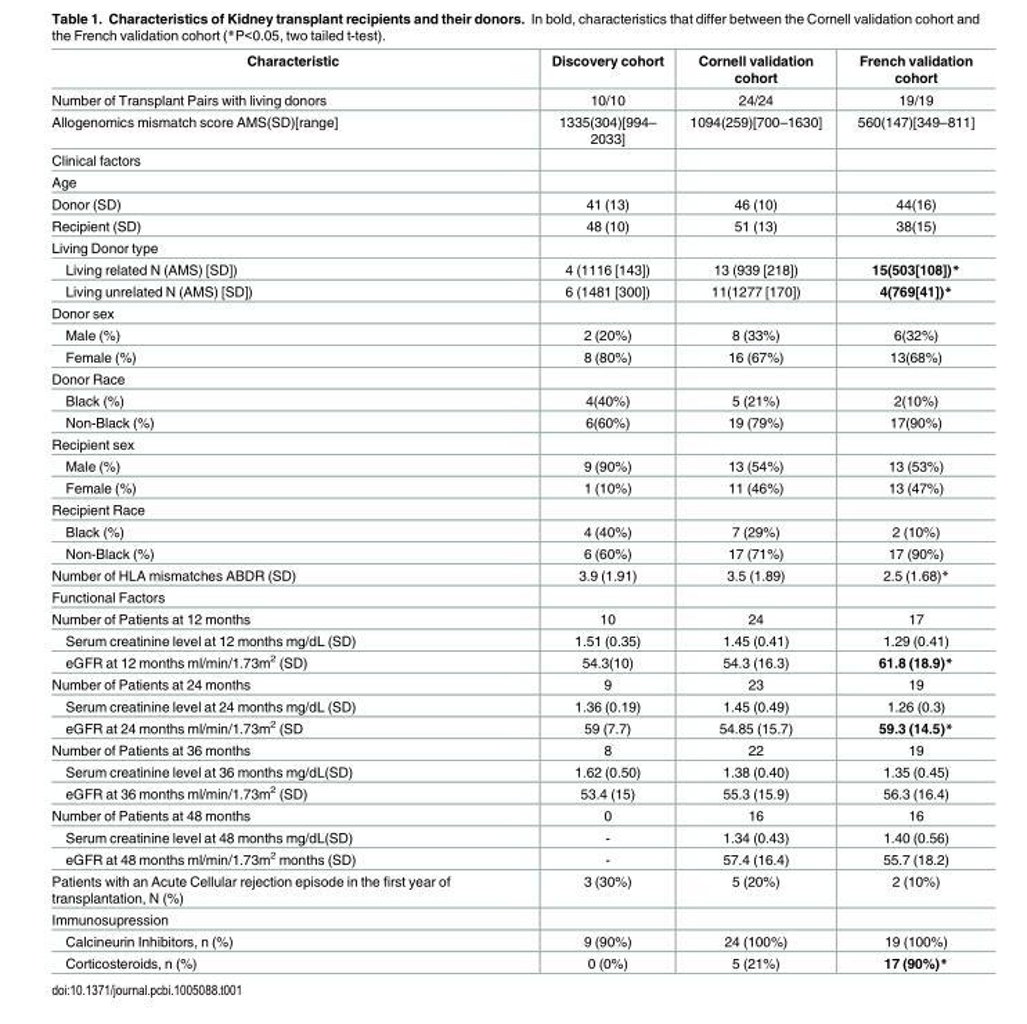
<table><thead><tr><td>Characteristic</td><td>Discovery cohort</td><td>Cornell validation cohort</td><td>French validation cohort</td></tr></thead><tbody><tr><td>Number of Transplant Pairs with living donors</td><td>10/10</td><td>24/24</td><td>19/19</td></tr><tr><td>Allogenomics mismatch score AMS(SD)[range]</td><td>1335(304)[994– 2033]</td><td>1094(259)[700–1630]</td><td>560(147)[349–811]</td></tr><tr><td colspan="4">Clinical factors</td></tr><tr><td colspan="4">Age</td></tr><tr><td>Donor (SD)</td><td>41 (13)</td><td>46 (10)</td><td>44(16)</td></tr><tr><td>Recipient (SD)</td><td>48 (10)</td><td>51 (13)</td><td>38(15)</td></tr><tr><td colspan="4">Living Donor type</td></tr><tr><td>Living related N (AMS) [SD])</td><td>4 (1116 [143])</td><td>13 (939 [218])</td><td>15(503[108])*</td></tr><tr><td>Living unrelated N (AMS) [SD])</td><td>6 (1481 [300])</td><td>11(1277 [170])</td><td>4(769[41])*</td></tr><tr><td colspan="4">Donor sex</td></tr><tr><td>Male (%)</td><td>2 (20%)</td><td>8 (33%)</td><td>6(32%)</td></tr><tr><td>Female (%)</td><td>8 (80%)</td><td>16 (67%)</td><td>13(68%)</td></tr><tr><td colspan="4">Donor Race</td></tr><tr><td>Black (%)</td><td>4(40%)</td><td>5 (21%)</td><td>2(10%)</td></tr><tr><td>Non-Black (%)</td><td>6(60%)</td><td>19 (79%)</td><td>17(90%)</td></tr><tr><td colspan="4">Recipient sex</td></tr><tr><td>Male (%)</td><td>9 (90%)</td><td>13 (54%)</td><td>13 (53%)</td></tr><tr><td>Female (%)</td><td>1 (10%)</td><td>11 (46%)</td><td>13 (47%)</td></tr><tr><td colspan="4">Recipient Race</td></tr><tr><td>Black (%)</td><td>4 (40%)</td><td>7 (29%)</td><td>2 (10%)</td></tr><tr><td>Non-Black (%)</td><td>6 (60%)</td><td>17 (71%)</td><td>17 (90%)</td></tr><tr><td>Number of HLA mismatches ABDR (SD)</td><td>3.9 (1.91)</td><td>3.5 (1.89)</td><td>2.5 (1.68)*</td></tr><tr><td colspan="4">Functional Factors</td></tr><tr><td>Number of Patients at 12 months</td><td>10</td><td>24</td><td>17</td></tr><tr><td>Serum creatinine level at 12 months mg/dL (SD)</td><td>1.51 (0.35)</td><td>1.45 (0.41)</td><td>1.29 (0.41)</td></tr><tr><td>eGFR at 12 months ml/min/1.73m<sup>2</sup> (SD)</td><td>54.3(10)</td><td>54.3 (16.3)</td><td>61.8 (18.9)*</td></tr><tr><td>Number of Patients at 24 months</td><td>9</td><td>23</td><td>19</td></tr><tr><td>Serum creatinine level at 24 months mg/dL (SD)</td><td>1.36 (0.19)</td><td>1.45 (0.49)</td><td>1.26 (0.3)</td></tr><tr><td>eGFR at 24 months ml/min/1.73m<sup>2</sup> (SD</td><td>59 (7.7)</td><td>54.85 (15.7)</td><td>59.3 (14.5)*</td></tr><tr><td>Number of Patients at 36 months</td><td>8</td><td>22</td><td>19</td></tr><tr><td>Serum creatinine level at 36 months mg/dL(SD)</td><td>1.62 (0.50)</td><td>1.38 (0.40)</td><td>1.35 (0.45)</td></tr><tr><td>eGFR at 36 months ml/min/1.73m<sup>2</sup> (SD)</td><td>53.4 (15)</td><td>55.3 (15.9)</td><td>56.3 (16.4)</td></tr><tr><td>Number of Patients at 48 months</td><td>0</td><td>16</td><td>16</td></tr><tr><td>Serum creatinine level at 48 months mg/dL(SD)</td><td>-</td><td>1.34 (0.43)</td><td>1.40 (0.56)</td></tr><tr><td>eGFR at 48 months ml/min/1.73m<sup>2</sup> months (SD)</td><td>-</td><td>57.4 (16.4)</td><td>55.7 (18.2)</td></tr><tr><td>Patients with an Acute Cellular rejection episode in the first year of transplantation, N (%)</td><td>3 (30%)</td><td>5 (20%)</td><td>2 (10%)</td></tr><tr><td colspan="4">Immunosupression</td></tr><tr><td>Calcineurin Inhibitors, n (%)</td><td>9 (90%)</td><td>24 (100%)</td><td>19 (100%)</td></tr><tr><td>Corticosteroids, n (%)</td><td>0 (0%)</td><td>5 (21%)</td><td>17 (90%)*</td></tr></tbody></table>